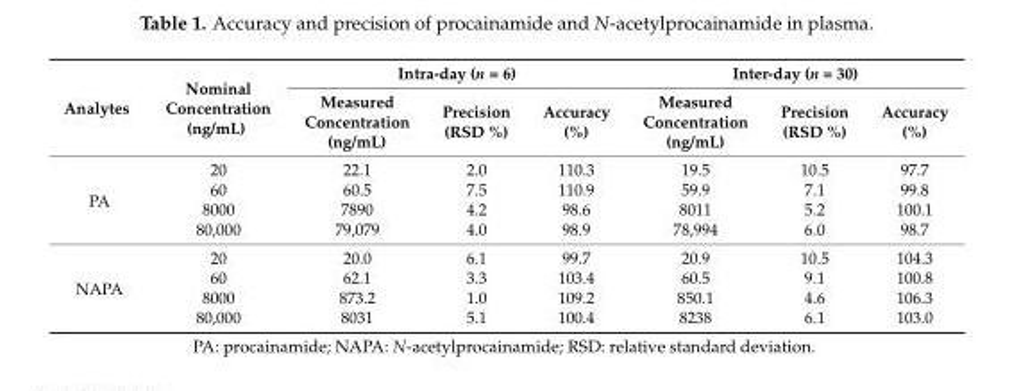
<table><thead><tr><td rowspan="2">Analytes</td><td rowspan="2">Nominal Concentration (ng/mL)</td><td colspan="3">Intra-day (n = 6)</td><td colspan="3">Inter-day (n = 30)</td></tr><tr><td>Measured Concentration (ng/mL)</td><td>Precision (RSD %)</td><td>Accuracy (%)</td><td>Measured Concentration (ng/mL)</td><td>Precision (RSD %)</td><td>Accuracy (%)</td></tr></thead><tbody><tr><td rowspan="4">PA</td><td>20</td><td>22.1</td><td>2.0</td><td>110.3</td><td>19.5</td><td>10.5</td><td>97.7</td></tr><tr><td>60</td><td>60.5</td><td>7.5</td><td>110.9</td><td>59.9</td><td>7.1</td><td>99.8</td></tr><tr><td>8000</td><td>7890</td><td>4.2</td><td>98.6</td><td>8011</td><td>5.2</td><td>100.1</td></tr><tr><td>80,000</td><td>79,079</td><td>4.0</td><td>98.9</td><td>78,994</td><td>6.0</td><td>98.7</td></tr><tr><td rowspan="4">NAPA</td><td>20</td><td>20.0</td><td>6.1</td><td>99.7</td><td>20.9</td><td>10.5</td><td>104.3</td></tr><tr><td>60</td><td>62.1</td><td>3.3</td><td>103.4</td><td>60.5</td><td>9.1</td><td>100.8</td></tr><tr><td>8000</td><td>873.2</td><td>1.0</td><td>109.2</td><td>850.1</td><td>4.6</td><td>106.3</td></tr><tr><td>80,000</td><td>8031</td><td>5.1</td><td>100.4</td><td>8238</td><td>6.1</td><td>103.0</td></tr></tbody></table>